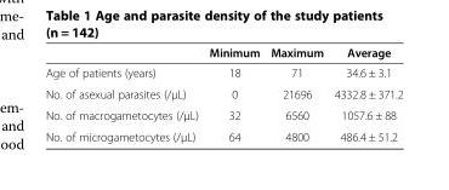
<table><thead><tr><td></td><td>Minimum</td><td>Maximum</td><td>Average</td></tr></thead><tbody><tr><td>Age of patients (years)</td><td>18</td><td>71</td><td>34.6 ± 3.1</td></tr><tr><td>No. of asexual parasites (/μL)</td><td>0</td><td>21696</td><td>4332.8 ± 371.2</td></tr><tr><td>No. of macrogametocytes (/μL)</td><td>32</td><td>6560</td><td>1057.6 ± 88</td></tr><tr><td>No. of microgametocytes (/μL)</td><td>64</td><td>4800</td><td>486.4 ± 51.2</td></tr></tbody></table>